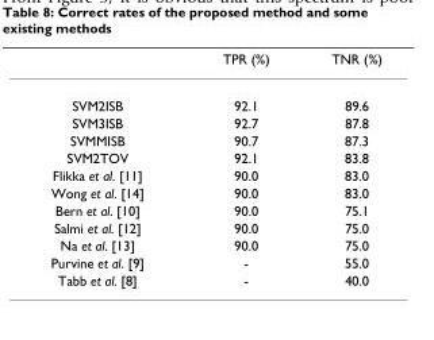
<table><thead><tr><td></td><td>TPR (%)</td><td>TNR (%)</td></tr></thead><tbody><tr><td>SVM2ISB</td><td>92.1</td><td>89.6</td></tr><tr><td>SVM3ISB</td><td>92.7</td><td>87.8</td></tr><tr><td>SVMMISB</td><td>90.7</td><td>87.3</td></tr><tr><td>SVM2TOV</td><td>92.1</td><td>83.8</td></tr><tr><td>Flikka et al. [11]</td><td>90.0</td><td>83.0</td></tr><tr><td>Wong et al. [14]</td><td>90.0</td><td>83.0</td></tr><tr><td>Bern et al. [10]</td><td>90.0</td><td>75.1</td></tr><tr><td>Salmi et al. [12]</td><td>90.0</td><td>75.0</td></tr><tr><td>Na et al. [13]</td><td>90.0</td><td>75.0</td></tr><tr><td>Purvine et al. [9]</td><td>-</td><td>55.0</td></tr><tr><td>Tabb et al. [8]</td><td>-</td><td>40.0</td></tr></tbody></table>